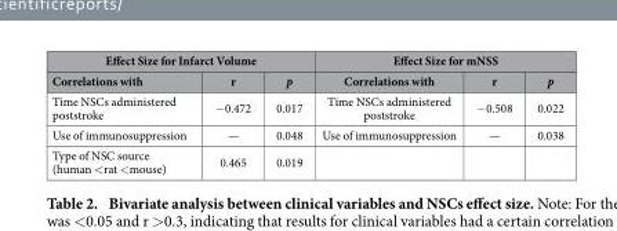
<table><thead><tr><td colspan="3">Effect Size for Infarct Volume</td><td colspan="3">Effect Size for mNSS</td></tr><tr><td>Correlations with</td><td>r</td><td>p</td><td>Correlations with</td><td>r</td><td>p</td></tr></thead><tbody><tr><td>Time NSCs administered poststroke</td><td>− 0.472</td><td>0.017</td><td>Time NSCs administered poststroke</td><td>− 0.508</td><td>0.022</td></tr><tr><td>Use of immunosuppression</td><td>—</td><td>0.048</td><td>Use of immunosuppression</td><td>—</td><td>0.038</td></tr><tr><td>Type of NSC source (human &lt; rat &lt; mouse)</td><td>0.465</td><td>0.019</td><td></td><td></td><td></td></tr></tbody></table>